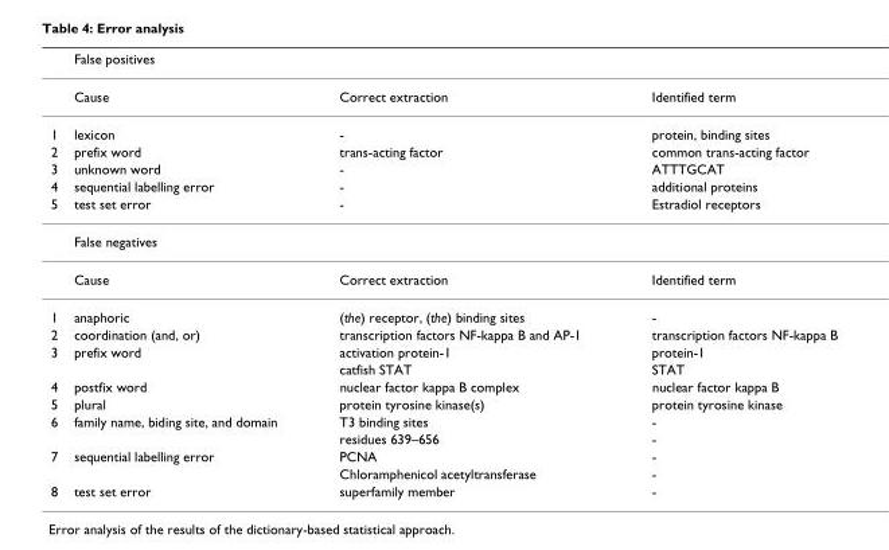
<table><thead><tr><td rowspan="2"></td><td colspan="3">False positives</td></tr><tr><td>Cause</td><td>Correct extraction</td><td>Identified term</td></tr></thead><tbody><tr><td>1</td><td>lexicon</td><td>-</td><td>protein, binding sites</td></tr><tr><td>2</td><td>prefix word</td><td>trans-acting factor</td><td>common trans-acting factor</td></tr><tr><td>3</td><td>unknown word</td><td>-</td><td>ATTTGCAT</td></tr><tr><td>4</td><td>sequential labelling error</td><td>-</td><td>additional proteins</td></tr><tr><td rowspan="3">5</td><td>test set error</td><td>-</td><td>Estradiol receptors</td></tr><tr><td colspan="3">False negatives</td></tr><tr><td>Cause</td><td>Correct extraction</td><td>Identified term</td></tr><tr><td>1</td><td>anaphoric</td><td>(the) receptor, (the) binding sites</td><td>-</td></tr><tr><td>2</td><td>coordination (and, or)</td><td>transcription factors NF-kappa B and AP-1</td><td>transcription factors NF-kappa B</td></tr><tr><td rowspan="2">3</td><td>prefix word</td><td>activation protein-1</td><td>protein-1</td></tr><tr><td></td><td>catfish STAT</td><td>STAT</td></tr><tr><td>4</td><td>postfix word</td><td>nuclear factor kappa B complex</td><td>nuclear factor kappa B</td></tr><tr><td>5</td><td>plural</td><td>protein tyrosine kinase(s)</td><td>protein tyrosine kinase</td></tr><tr><td rowspan="2">6</td><td>family name, biding site, and domain</td><td>T3 binding sites</td><td>-</td></tr><tr><td></td><td>residues 639–656</td><td>-</td></tr><tr><td rowspan="2">7</td><td>sequential labelling error</td><td>PCNA</td><td>-</td></tr><tr><td></td><td>Chloramphenicol acetyltransferase</td><td>-</td></tr><tr><td>8</td><td>test set error</td><td>superfamily member</td><td>-</td></tr></tbody></table>